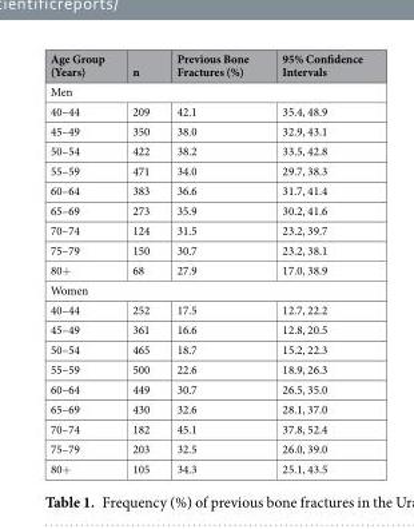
<table><thead><tr><td>Age Group (Years)</td><td>n</td><td>Previous Bone Fractures (%)</td><td>95% Confidence Intervals</td></tr></thead><tbody><tr><td colspan="4">Men</td></tr><tr><td>40–44</td><td>209</td><td>42.1</td><td>35.4, 48.9</td></tr><tr><td>45–49</td><td>350</td><td>38.0</td><td>32.9, 43.1</td></tr><tr><td>50–54</td><td>422</td><td>38.2</td><td>33.5, 42.8</td></tr><tr><td>55–59</td><td>471</td><td>34.0</td><td>29.7, 38.3</td></tr><tr><td>60–64</td><td>383</td><td>36.6</td><td>31.7, 41.4</td></tr><tr><td>65–69</td><td>273</td><td>35.9</td><td>30.2, 41.6</td></tr><tr><td>70–74</td><td>124</td><td>31.5</td><td>23.2, 39.7</td></tr><tr><td>75–79</td><td>150</td><td>30.7</td><td>23.2, 38.1</td></tr><tr><td>80+</td><td>68</td><td>27.9</td><td>17.0, 38.9</td></tr><tr><td colspan="4">Women</td></tr><tr><td>40–44</td><td>252</td><td>17.5</td><td>12.7, 22.2</td></tr><tr><td>45–49</td><td>361</td><td>16.6</td><td>12.8, 20.5</td></tr><tr><td>50–54</td><td>465</td><td>18.7</td><td>15.2, 22.3</td></tr><tr><td>55–59</td><td>500</td><td>22.6</td><td>18.9, 26.3</td></tr><tr><td>60–64</td><td>449</td><td>30.7</td><td>26.5, 35.0</td></tr><tr><td>65–69</td><td>430</td><td>32.6</td><td>28.1, 37.0</td></tr><tr><td>70–74</td><td>182</td><td>45.1</td><td>37.8, 52.4</td></tr><tr><td>75–79</td><td>203</td><td>32.5</td><td>26.0, 39.0</td></tr><tr><td>80+</td><td>105</td><td>34.3</td><td>25.1, 43.5</td></tr></tbody></table>